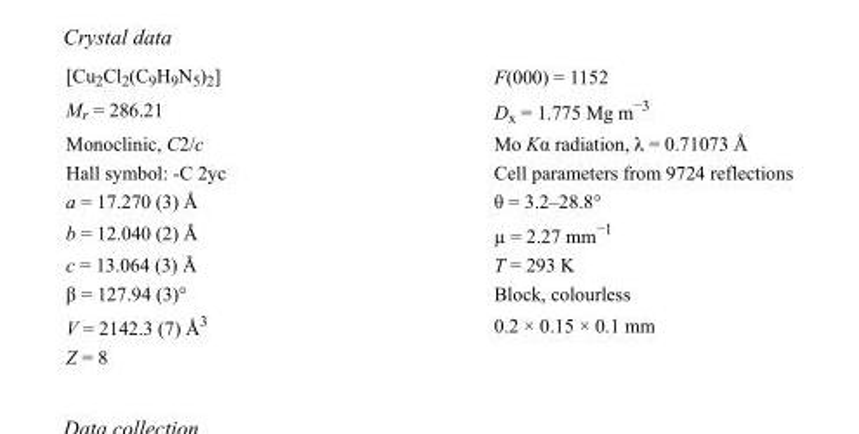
<table><tbody><tr><td>[Cu<sub>2</sub>Cl<sub>2</sub>(C<sub>9</sub>H<sub>9</sub>N<sub>5</sub>)<sub>2</sub>]</td><td>F(000) = 1152</td></tr><tr><td>M<sub>r</sub> = 286.21</td><td>D<sub>x</sub> = 1.775 Mg m<sup>−3</sup></td></tr><tr><td>Monoclinic, C2/c</td><td>Mo Kα radiation, λ = 0.71073 Å</td></tr><tr><td>Hall symbol: -C 2yc</td><td>Cell parameters from 9724 reflections</td></tr><tr><td>a = 17.270 (3) Å</td><td>θ = 3.2–28.8°</td></tr><tr><td>b = 12.040 (2) Å</td><td>µ = 2.27 mm<sup>−1</sup></td></tr><tr><td>c = 13.064 (3) Å</td><td>T = 293 K</td></tr><tr><td>β = 127.94 (3)°</td><td>Block, colourless</td></tr><tr><td>V = 2142.3 (7) Å<sup>3</sup></td><td>0.2 × 0.15 × 0.1 mm</td></tr><tr><td>Z = 8</td><td></td></tr></tbody></table>